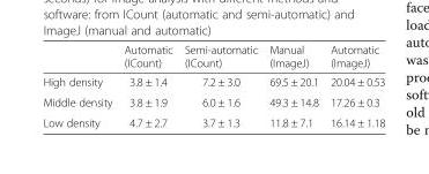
<table><thead><tr><td></td><td>Automatic (ICount)</td><td>Semi-automatic (ICount)</td><td>Manual (ImageJ)</td><td>Automatic (ImageJ)</td></tr></thead><tbody><tr><td>High density</td><td>3.8 ± 1.4</td><td>7.2 ± 3.0</td><td>69.5 ± 20.1</td><td>20.04 ± 0.53</td></tr><tr><td>Middle density</td><td>3.8 ± 1.9</td><td>6.0 ± 1.6</td><td>49.3 ± 14.8</td><td>17.26 ± 0.3</td></tr><tr><td>Low density</td><td>4.7 ± 2.7</td><td>3.7 ± 1.3</td><td>11.8 ± 7.1</td><td>16.14 ± 1.18</td></tr></tbody></table>